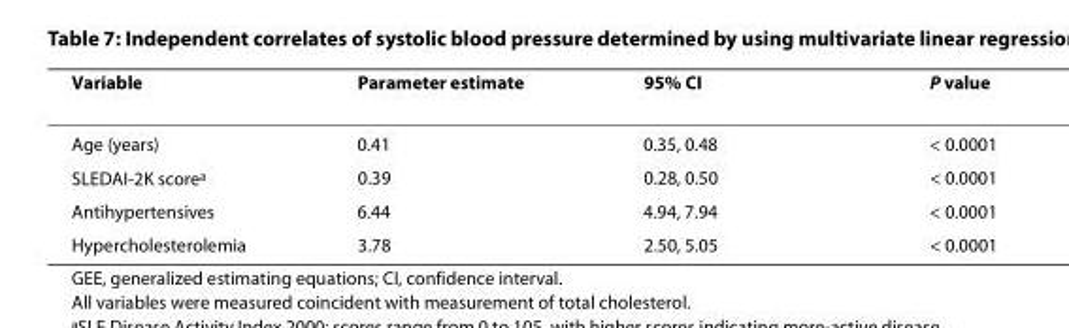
<table><thead><tr><td>Variable</td><td>Parameter estimate</td><td>95% CI</td><td>P value</td></tr></thead><tbody><tr><td>Age (years)</td><td>0.41</td><td>0.35, 0.48</td><td>&lt; 0.0001</td></tr><tr><td>SLEDAI-2K score<sup>a</sup></td><td>0.39</td><td>0.28, 0.50</td><td>&lt; 0.0001</td></tr><tr><td>Antihypertensives</td><td>6.44</td><td>4.94, 7.94</td><td>&lt; 0.0001</td></tr><tr><td>Hypercholesterolemia</td><td>3.78</td><td>2.50, 5.05</td><td>&lt; 0.0001</td></tr></tbody></table>